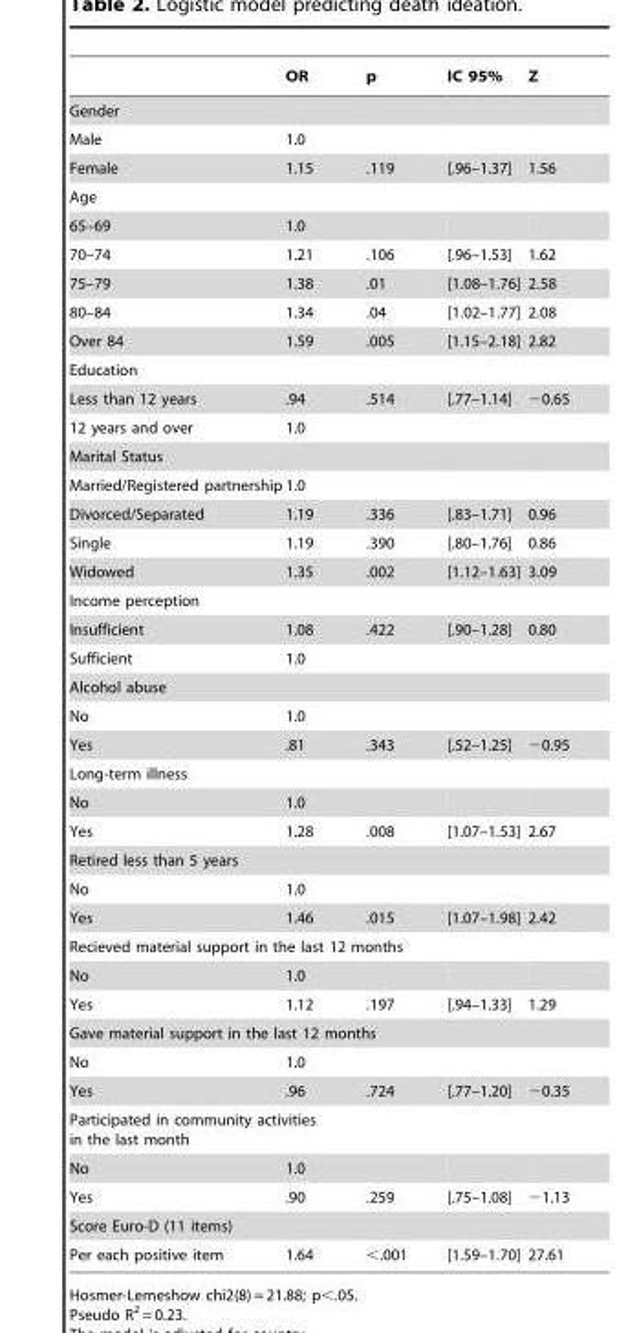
<table><thead><tr><td></td><td>OR</td><td>p</td><td>IC 95%</td><td>Z</td></tr></thead><tbody><tr><td colspan="5">Gender</td></tr><tr><td>Male</td><td>1.0</td><td></td><td></td><td></td></tr><tr><td>Female</td><td>1.15</td><td>.119</td><td>[.96–1.37]</td><td>1.56</td></tr><tr><td colspan="5">Age</td></tr><tr><td>65–69</td><td>1.0</td><td></td><td></td><td></td></tr><tr><td>70–74</td><td>1.21</td><td>.106</td><td>[.96–1.53]</td><td>1.62</td></tr><tr><td>75–79</td><td>1.38</td><td>.01</td><td>[1.08–1.76]</td><td>2.58</td></tr><tr><td>80–84</td><td>1.34</td><td>.04</td><td>[1.02–1.77]</td><td>2.08</td></tr><tr><td>Over 84</td><td>1.59</td><td>.005</td><td>[1.15–2.18]</td><td>2.82</td></tr><tr><td colspan="5">Education</td></tr><tr><td>Less than 12 years</td><td>.94</td><td>.514</td><td>[.77–1.14]</td><td>−0.65</td></tr><tr><td>12 years and over</td><td>1.0</td><td></td><td></td><td></td></tr><tr><td colspan="5">Marital Status</td></tr><tr><td>Married/Registered partnership</td><td>1.0</td><td></td><td></td><td></td></tr><tr><td>Divorced/Separated</td><td>1.19</td><td>.336</td><td>[.83–1.71]</td><td>0.96</td></tr><tr><td>Single</td><td>1.19</td><td>.390</td><td>[.80–1.76]</td><td>0.86</td></tr><tr><td>Widowed</td><td>1.35</td><td>.002</td><td>[1.12–1.63]</td><td>3.09</td></tr><tr><td colspan="5">Income perception</td></tr><tr><td>Insufficient</td><td>1.08</td><td>.422</td><td>[.90–1.28]</td><td>0.80</td></tr><tr><td>Sufficient</td><td>1.0</td><td></td><td></td><td></td></tr><tr><td colspan="5">Alcohol abuse</td></tr><tr><td>No</td><td>1.0</td><td></td><td></td><td></td></tr><tr><td>Yes</td><td>.81</td><td>.343</td><td>[.52–1.25]</td><td>−0.95</td></tr><tr><td colspan="5">Long-term illness</td></tr><tr><td>No</td><td>1.0</td><td></td><td></td><td></td></tr><tr><td>Yes</td><td>1.28</td><td>.008</td><td>[1.07–1.53]</td><td>2.67</td></tr><tr><td colspan="5">Retired less than 5 years</td></tr><tr><td>No</td><td>1.0</td><td></td><td></td><td></td></tr><tr><td>Yes</td><td>1.46</td><td>.015</td><td>[1.07–1.98]</td><td>2.42</td></tr><tr><td colspan="5">Recieved material support in the last 12 months</td></tr><tr><td>No</td><td>1.0</td><td></td><td></td><td></td></tr><tr><td>Yes</td><td>1.12</td><td>.197</td><td>[.94–1.33]</td><td>1.29</td></tr><tr><td colspan="5">Gave material support in the last 12 months</td></tr><tr><td>No</td><td>1.0</td><td></td><td></td><td></td></tr><tr><td>Yes</td><td>.96</td><td>.724</td><td>[.77–1.20]</td><td>−0.35</td></tr><tr><td colspan="5">Participated in community activities in the last month</td></tr><tr><td>No</td><td>1.0</td><td></td><td></td><td></td></tr><tr><td>Yes</td><td>.90</td><td>.259</td><td>[.75–1.08]</td><td>−1.13</td></tr><tr><td colspan="5">Score Euro-D (11 items)</td></tr><tr><td>Per each positive item</td><td>1.64</td><td>&lt;.001</td><td>[1.59–1.70]</td><td>27.61</td></tr></tbody></table>